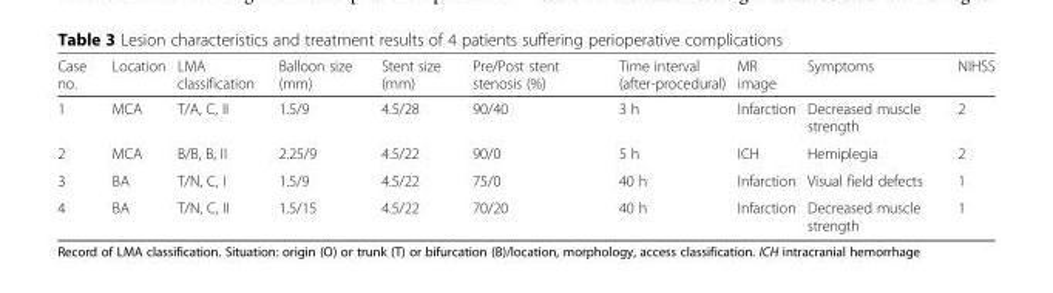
<table><thead><tr><td>Case no.</td><td>Location</td><td>LMA classification</td><td>Balloon size (mm)</td><td>Stent size (mm)</td><td>Pre/Post stent stenosis (%)</td><td>Time interval (after-procedural)</td><td>MR image</td><td>Symptoms</td><td>NIHSS</td></tr></thead><tbody><tr><td>1</td><td>MCA</td><td>T/A, C, II</td><td>1.5/9</td><td>4.5/28</td><td>90/40</td><td>3 h</td><td>Infarction</td><td>Decreased muscle strength</td><td>2</td></tr><tr><td>2</td><td>MCA</td><td>B/B, B, II</td><td>2.25/9</td><td>4.5/22</td><td>90/0</td><td>5 h</td><td>ICH</td><td>Hemiplegia</td><td>2</td></tr><tr><td>3</td><td>BA</td><td>T/N, C, I</td><td>1.5/9</td><td>4.5/22</td><td>75/0</td><td>40 h</td><td>Infarction</td><td>Visual field defects</td><td>1</td></tr><tr><td>4</td><td>BA</td><td>T/N, C, II</td><td>1.5/15</td><td>4.5/22</td><td>70/20</td><td>40 h</td><td>Infarction</td><td>Decreased muscle strength</td><td>1</td></tr></tbody></table>